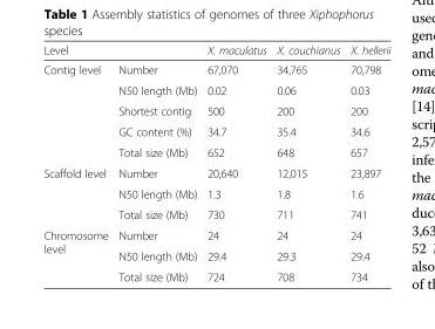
<table><thead><tr><td>Level</td><td></td><td>X. maculatus</td><td>X. couchianus</td><td>X. hellerii</td></tr></thead><tbody><tr><td rowspan="5">Contig level</td><td>Number</td><td>67,070</td><td>34,765</td><td>70,798</td></tr><tr><td>N50 length (Mb)</td><td>0.02</td><td>0.06</td><td>0.03</td></tr><tr><td>Shortest contig</td><td>500</td><td>200</td><td>200</td></tr><tr><td>GC content (%)</td><td>34.7</td><td>35.4</td><td>34.6</td></tr><tr><td>Total size (Mb)</td><td>652</td><td>648</td><td>657</td></tr><tr><td rowspan="3">Scaffold level</td><td>Number</td><td>20,640</td><td>12,015</td><td>23,897</td></tr><tr><td>N50 length (Mb)</td><td>1.3</td><td>1.8</td><td>1.6</td></tr><tr><td>Total size (Mb)</td><td>730</td><td>711</td><td>741</td></tr><tr><td rowspan="3">Chromosome level</td><td>Number</td><td>24</td><td>24</td><td>24</td></tr><tr><td>N50 length (Mb)</td><td>29.4</td><td>29.3</td><td>29.4</td></tr><tr><td>Total size (Mb)</td><td>724</td><td>708</td><td>734</td></tr></tbody></table>